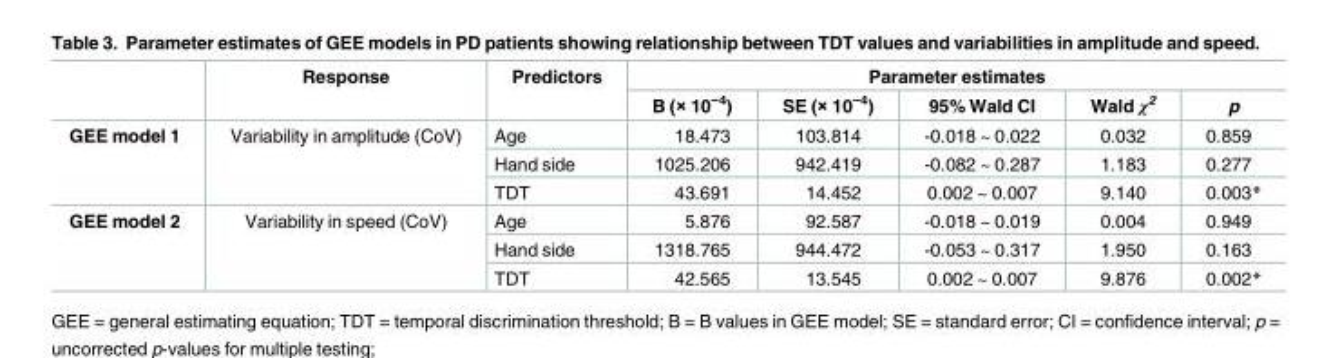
<table><thead><tr><td rowspan="2"></td><td rowspan="2">Response</td><td rowspan="2">Predictors</td><td colspan="5">Parameter estimates</td></tr><tr><td>B (× 10<sup>−4</sup>)</td><td>SE (× 10<sup>−4</sup>)</td><td>95% Wald CI</td><td>Wald χ<sup>2</sup></td><td>p</td></tr></thead><tbody><tr><td rowspan="3">GEE model 1</td><td rowspan="3">Variability in amplitude (CoV)</td><td>Age</td><td>18.473</td><td>103.814</td><td>-0.018 ~ 0.022</td><td>0.032</td><td>0.859</td></tr><tr><td>Hand side</td><td>1025.206</td><td>942.419</td><td>-0.082 ~ 0.287</td><td>1.183</td><td>0.277</td></tr><tr><td>TDT</td><td>43.691</td><td>14.452</td><td>0.002 ~ 0.007</td><td>9.140</td><td>0.003*</td></tr><tr><td rowspan="3">GEE model 2</td><td rowspan="3">Variability in speed (CoV)</td><td>Age</td><td>5.876</td><td>92.587</td><td>-0.018 ~ 0.019</td><td>0.004</td><td>0.949</td></tr><tr><td>Hand side</td><td>1318.765</td><td>944.472</td><td>-0.053 ~ 0.317</td><td>1.950</td><td>0.163</td></tr><tr><td>TDT</td><td>42.565</td><td>13.545</td><td>0.002 ~ 0.007</td><td>9.876</td><td>0.002*</td></tr></tbody></table>